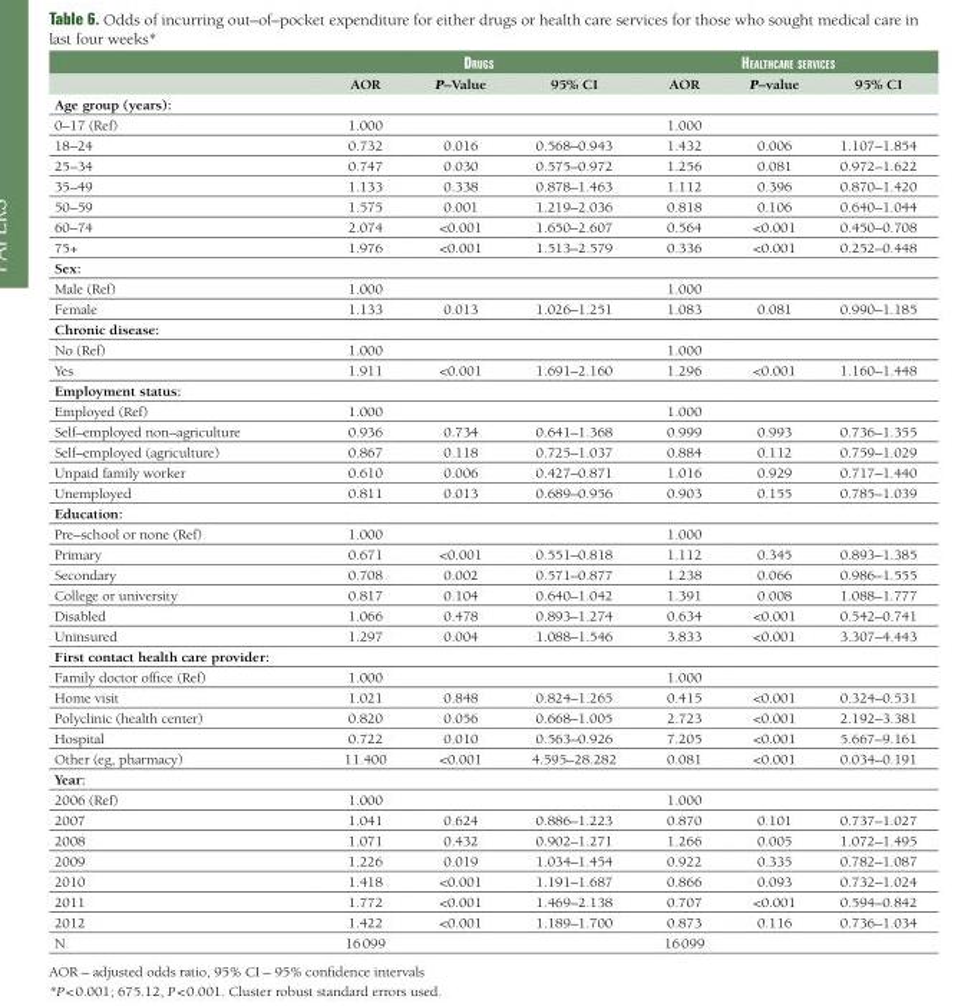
<table><thead><tr><td rowspan="2"></td><td colspan="3">DRugs</td><td colspan="3">HeAltHCARe seRvICes</td></tr><tr><td>AOR</td><td>P–Value</td><td>95% CI</td><td>AOR</td><td>P–value</td><td>95% CI</td></tr></thead><tbody><tr><td colspan="7">Age group (years):</td></tr><tr><td>0–17 (Ref)</td><td>1.000</td><td></td><td></td><td>1.000</td><td></td><td></td></tr><tr><td>18–24</td><td>0.732</td><td>0.016</td><td>0.568–0.943</td><td>1.432</td><td>0.006</td><td>1.107–1.854</td></tr><tr><td>25–34</td><td>0.747</td><td>0.030</td><td>0.575–0.972</td><td>1.256</td><td>0.081</td><td>0.972–1.622</td></tr><tr><td>35–49</td><td>1.133</td><td>0.338</td><td>0.878–1.463</td><td>1.112</td><td>0.396</td><td>0.870–1.420</td></tr><tr><td>50–59</td><td>1.575</td><td>0.001</td><td>1.219–2.036</td><td>0.818</td><td>0.106</td><td>0.640–1.044</td></tr><tr><td>60–74</td><td>2.074</td><td>&lt;0.001</td><td>1.650–2.607</td><td>0.564</td><td>&lt;0.001</td><td>0.450–0.708</td></tr><tr><td>75+</td><td>1.976</td><td>&lt;0.001</td><td>1.513–2.579</td><td>0.336</td><td>&lt;0.001</td><td>0.252–0.448</td></tr><tr><td colspan="7">Sex:</td></tr><tr><td>Male (Ref)</td><td>1.000</td><td></td><td></td><td>1.000</td><td></td><td></td></tr><tr><td>Female</td><td>1.133</td><td>0.013</td><td>1.026–1.251</td><td>1.083</td><td>0.081</td><td>0.990–1.185</td></tr><tr><td colspan="7">Chronic disease:</td></tr><tr><td>No (Ref)</td><td>1.000</td><td></td><td></td><td>1.000</td><td></td><td></td></tr><tr><td>Yes</td><td>1.911</td><td>&lt;0.001</td><td>1.691–2.160</td><td>1.296</td><td>&lt;0.001</td><td>1.160–1.448</td></tr><tr><td colspan="7">Employment status:</td></tr><tr><td>Employed (Ref)</td><td>1.000</td><td></td><td></td><td>1.000</td><td></td><td></td></tr><tr><td>Self–employed non–agriculture</td><td>0.936</td><td>0.734</td><td>0.641–1.368</td><td>0.999</td><td>0.993</td><td>0.736–1.355</td></tr><tr><td>Self–employed (agriculture)</td><td>0.867</td><td>0.118</td><td>0.725–1.037</td><td>0.884</td><td>0.112</td><td>0.759–1.029</td></tr><tr><td>Unpaid family worker</td><td>0.610</td><td>0.006</td><td>0.427–0.871</td><td>1.016</td><td>0.929</td><td>0.717–1.440</td></tr><tr><td>Unemployed</td><td>0.811</td><td>0.013</td><td>0.689–0.956</td><td>0.903</td><td>0.155</td><td>0.785–1.039</td></tr><tr><td colspan="7">Education:</td></tr><tr><td>Pre–school or none (Ref)</td><td>1.000</td><td></td><td></td><td>1.000</td><td></td><td></td></tr><tr><td>Primary</td><td>0.671</td><td>&lt;0.001</td><td>0.551–0.818</td><td>1.112</td><td>0.345</td><td>0.893–1.385</td></tr><tr><td>Secondary</td><td>0.708</td><td>0.002</td><td>0.571–0.877</td><td>1.238</td><td>0.066</td><td>0.986–1.555</td></tr><tr><td>College or university</td><td>0.817</td><td>0.104</td><td>0.640–1.042</td><td>1.391</td><td>0.008</td><td>1.088–1.777</td></tr><tr><td>Disabled</td><td>1.066</td><td>0.478</td><td>0.893–1.274</td><td>0.634</td><td>&lt;0.001</td><td>0.542–0.741</td></tr><tr><td>Uninsured</td><td>1.297</td><td>0.004</td><td>1.088–1.546</td><td>3.833</td><td>&lt;0.001</td><td>3.307–4.443</td></tr><tr><td colspan="7">First contact health care provider:</td></tr><tr><td>Family doctor office (Ref)</td><td>1.000</td><td></td><td></td><td>1.000</td><td></td><td></td></tr><tr><td>Home visit</td><td>1.021</td><td>0.848</td><td>0.824–1.265</td><td>0.415</td><td>&lt;0.001</td><td>0.324–0.531</td></tr><tr><td>Polyclinic (health center)</td><td>0.820</td><td>0.056</td><td>0.668–1.005</td><td>2.723</td><td>&lt;0.001</td><td>2.192–3.381</td></tr><tr><td>Hospital</td><td>0.722</td><td>0.010</td><td>0.563–0.926</td><td>7.205</td><td>&lt;0.001</td><td>5.667–9.161</td></tr><tr><td>Other (eg, pharmacy)</td><td>11.400</td><td>&lt;0.001</td><td>4.595–28.282</td><td>0.081</td><td>&lt;0.001</td><td>0.034–0.191</td></tr><tr><td colspan="7">Year:</td></tr><tr><td>2006 (Ref)</td><td>1.000</td><td></td><td></td><td>1.000</td><td></td><td></td></tr><tr><td>2007</td><td>1.041</td><td>0.624</td><td>0.886–1.223</td><td>0.870</td><td>0.101</td><td>0.737–1.027</td></tr><tr><td>2008</td><td>1.071</td><td>0.432</td><td>0.902–1.271</td><td>1.266</td><td>0.005</td><td>1.072–1.495</td></tr><tr><td>2009</td><td>1.226</td><td>0.019</td><td>1.034–1.454</td><td>0.922</td><td>0.335</td><td>0.782–1.087</td></tr><tr><td>2010</td><td>1.418</td><td>&lt;0.001</td><td>1.191–1.687</td><td>0.866</td><td>0.093</td><td>0.732–1.024</td></tr><tr><td>2011</td><td>1.772</td><td>&lt;0.001</td><td>1.469–2.138</td><td>0.707</td><td>&lt;0.001</td><td>0.594–0.842</td></tr><tr><td>2012</td><td>1.422</td><td>&lt;0.001</td><td>1.189–1.700</td><td>0.873</td><td>0.116</td><td>0.736–1.034</td></tr><tr><td>N</td><td>16 099</td><td></td><td></td><td>16 099</td><td></td><td></td></tr></tbody></table>